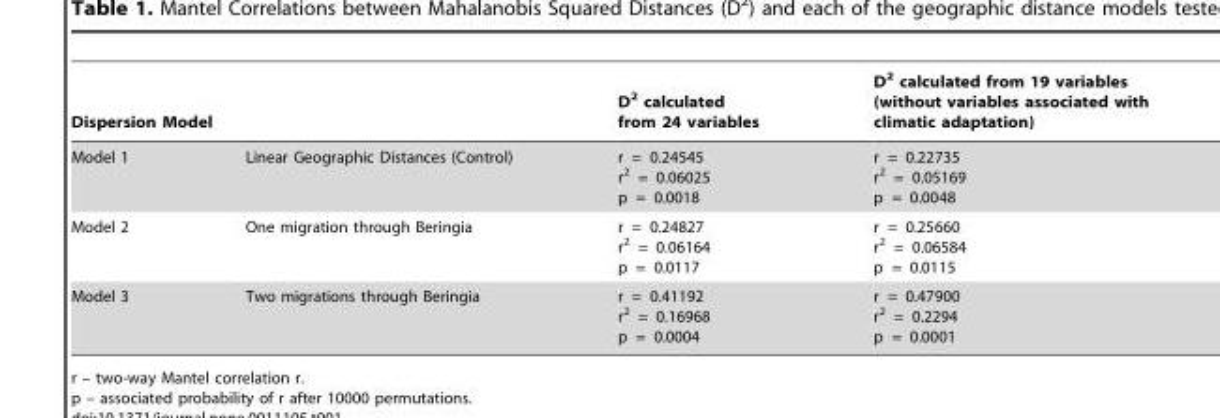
<table><thead><tr><td colspan="2">Dispersion Model</td><td rowspan="2">D<sup>2</sup> calculated from 24 variables r = 0.24545 r<sup>2</sup> = 0.06025 p = 0.0018</td><td rowspan="2">D<sup>2</sup> calculated from 19 variables (without variables associated with climatic adaptation) r = 0.22735 r<sup>2</sup> = 0.05169 p = 0.0048</td></tr><tr><td>Model 1</td><td>Linear Geographic Distances (Control)</td></tr></thead><tbody><tr><td>Model 2</td><td>One migration through Beringia</td><td>r = 0.24827 r<sup>2</sup> = 0.06164 p = 0.0117</td><td>r = 0.25660 r<sup>2</sup> = 0.06584 p = 0.0115</td></tr><tr><td>Model 3</td><td>Two migrations through Beringia</td><td>r = 0.41192 r<sup>2</sup> = 0.16968 p = 0.0004</td><td>r = 0.47900 r<sup>2</sup> = 0.2294 p = 0.0001</td></tr></tbody></table>